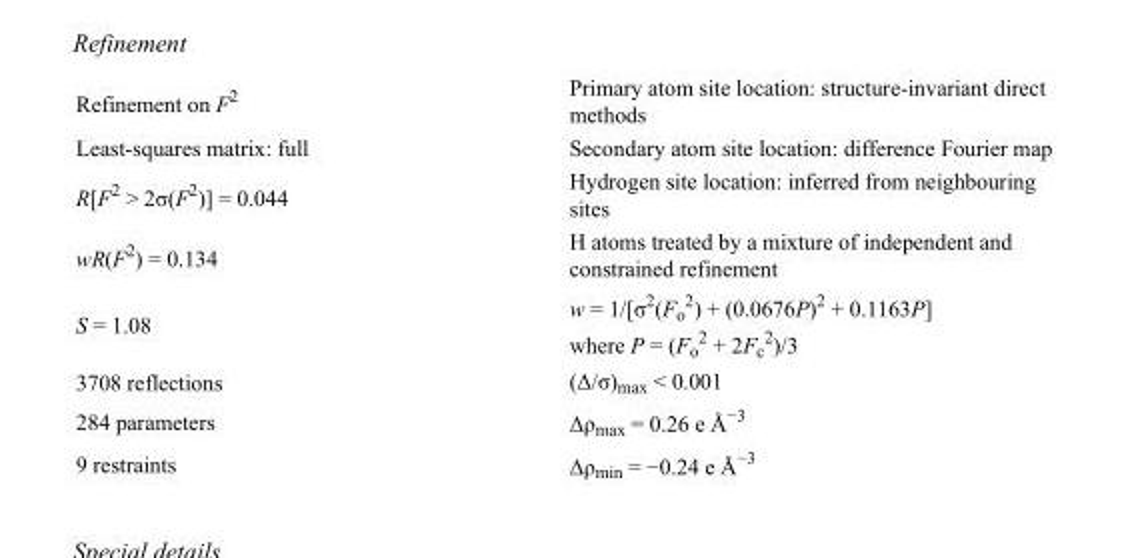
<table><tbody><tr><td>Refinement on F<sup>2</sup></td><td>Primary atom site location: structure-invariant direct methods</td></tr><tr><td>Least-squares matrix: full</td><td>Secondary atom site location: difference Fourier map</td></tr><tr><td>R[F<sup>2</sup> &gt; 2σ(F<sup>2</sup>)] = 0.044</td><td>Hydrogen site location: inferred from neighbouring sites</td></tr><tr><td>wR(F<sup>2</sup>) = 0.134</td><td>H atoms treated by a mixture of independent and constrained refinement</td></tr><tr><td>S = 1.08</td><td>w = 1/[σ<sup>2</sup>(F<sub>o</sub> <sup>2</sup>) + (0.0676P)<sup>2</sup> + 0.1163P] where P = (F<sub>o</sub> <sup>2</sup> + 2F<sub>c</sub> <sup>2</sup>)/3</td></tr><tr><td>3708 reflections</td><td>(Δ/σ)<sub>max</sub> &lt; 0.001</td></tr><tr><td>284 parameters</td><td>Δρ<sub>max</sub> = 0.26 e Å<sup>−3</sup></td></tr><tr><td>9 restraints</td><td>Δρ<sub>min</sub> = −0.24 e Å<sup>−3</sup></td></tr></tbody></table>